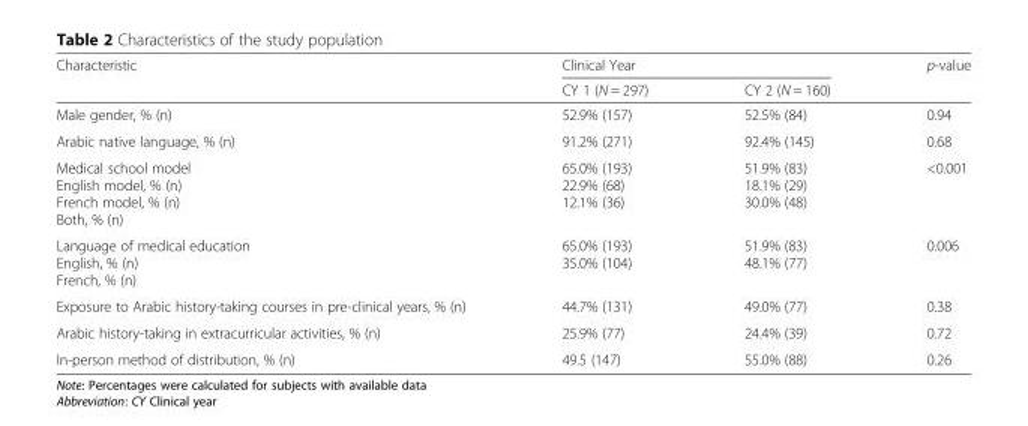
<table><thead><tr><td rowspan="2">Characteristic</td><td colspan="2">Clinical Year</td><td rowspan="2">p-value</td></tr><tr><td>CY 1 (N = 297)</td><td>CY 2 (N = 160)</td></tr></thead><tbody><tr><td>Male gender, % (n)</td><td>52.9% (157)</td><td>52.5% (84)</td><td>0.94</td></tr><tr><td>Arabic native language, % (n)</td><td>91.2% (271)</td><td>92.4% (145)</td><td>0.68</td></tr><tr><td>Medical school model English model, % (n) French model, % (n) Both, % (n)</td><td>65.0% (193) 22.9% (68) 12.1% (36)</td><td>51.9% (83) 18.1% (29) 30.0% (48)</td><td>&lt;0.001</td></tr><tr><td>Language of medical education English, % (n) French, % (n)</td><td>65.0% (193) 35.0% (104)</td><td>51.9% (83) 48.1% (77)</td><td>0.006</td></tr><tr><td>Exposure to Arabic history-taking courses in pre-clinical years, % (n)</td><td>44.7% (131)</td><td>49.0% (77)</td><td>0.38</td></tr><tr><td>Arabic history-taking in extracurricular activities, % (n)</td><td>25.9% (77)</td><td>24.4% (39)</td><td>0.72</td></tr><tr><td>In-person method of distribution, % (n)</td><td>49.5 (147)</td><td>55.0% (88)</td><td>0.26</td></tr></tbody></table>